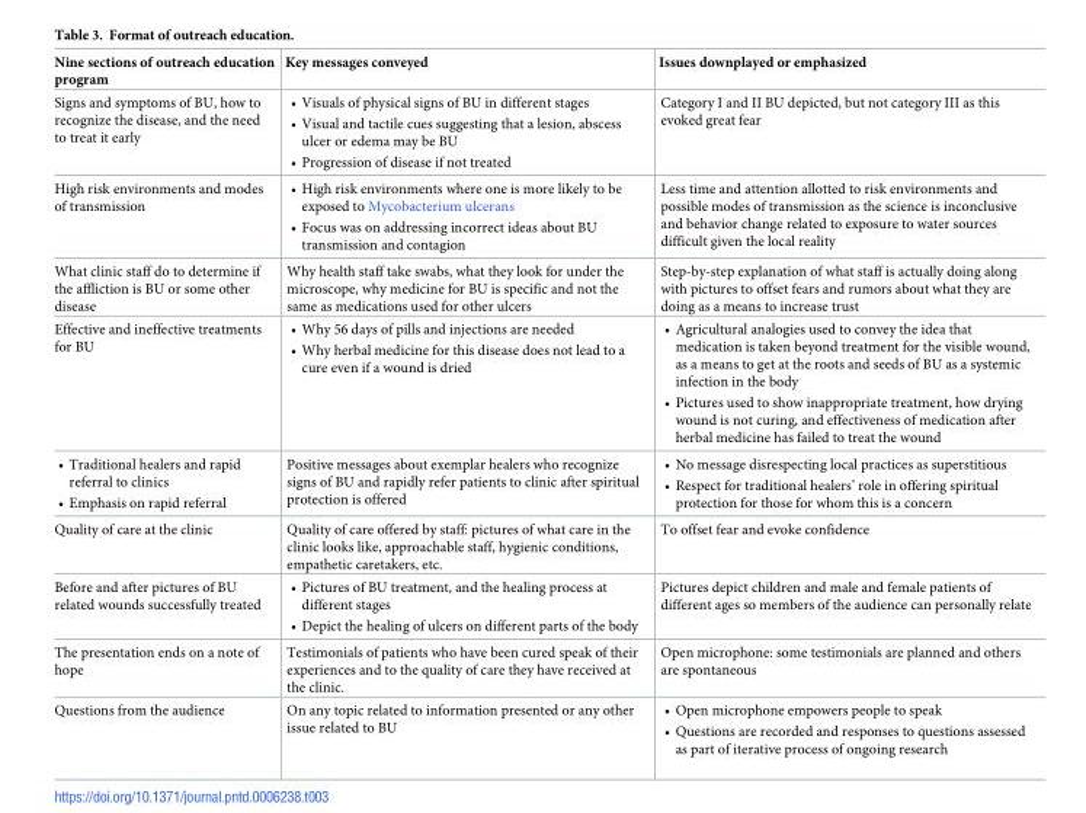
<table><thead><tr><td>Nine sections of outreach education program</td><td>Key messages conveyed</td><td>Issues downplayed or emphasized</td></tr></thead><tbody><tr><td>Signs and symptoms of BU, how to recognize the disease, and the need to treat it early</td><td>• Visuals of physical signs of BU in different stages • Visual and tactile cues suggesting that a lesion, abscess ulcer or edema may be BU • Progression of disease if not treated</td><td>Category I and II BU depicted, but not category III as this evoked great fear</td></tr><tr><td>High risk environments and modes of transmission</td><td>• High risk environments where one is more likely to be exposed to Mycobacterium ulcerans • Focus was on addressing incorrect ideas about BU transmission and contagion</td><td>Less time and attention allotted to risk environments and possible modes of transmission as the science is inconclusive and behavior change related to exposure to water sources difficult given the local reality</td></tr><tr><td>What clinic staff do to determine if the affliction is BU or some other disease</td><td>Why health staff take swabs, what they look for under the microscope, why medicine for BU is specific and not the same as medications used for other ulcers</td><td>Step-by-step explanation of what staff is actually doing along with pictures to offset fears and rumors about what they are doing as a means to increase trust</td></tr><tr><td>Effective and ineffective treatments for BU</td><td>• Why 56 days of pills and injections are needed • Why herbal medicine for this disease does not lead to a cure even if a wound is dried</td><td>• Agricultural analogies used to convey the idea that medication is taken beyond treatment for the visible wound, as a means to get at the roots and seeds of BU as a systemic infection in the body • Pictures used to show inappropriate treatment, how drying wound is not curing, and effectiveness of medication after herbal medicine has failed to treat the wound</td></tr><tr><td>• Traditional healers and rapid referral to clinics • Emphasis on rapid referral</td><td>Positive messages about exemplar healers who recognize signs of BU and rapidly refer patients to clinic after spiritual protection is offered</td><td>• No message disrespecting local practices as superstitious • Respect for traditional healers’ role in offering spiritual protection for those for whom this is a concern</td></tr><tr><td>Quality of care at the clinic</td><td>Quality of care offered by staff: pictures of what care in the clinic looks like, approachable staff, hygienic conditions, empathetic caretakers, etc.</td><td>To offset fear and evoke confidence</td></tr><tr><td>Before and after pictures of BU related wounds successfully treated</td><td>• Pictures of BU treatment, and the healing process at different stages • Depict the healing of ulcers on different parts of the body</td><td>Pictures depict children and male and female patients of different ages so members of the audience can personally relate</td></tr><tr><td>The presentation ends on a note of hope</td><td>Testimonials of patients who have been cured speak of their experiences and to the quality of care they have received at the clinic.</td><td>Open microphone: some testimonials are planned and others are spontaneous</td></tr><tr><td>Questions from the audience</td><td>On any topic related to information presented or any other issue related to BU</td><td>• Open microphone empowers people to speak • Questions are recorded and responses to questions assessed as part of iterative process of ongoing research</td></tr></tbody></table>